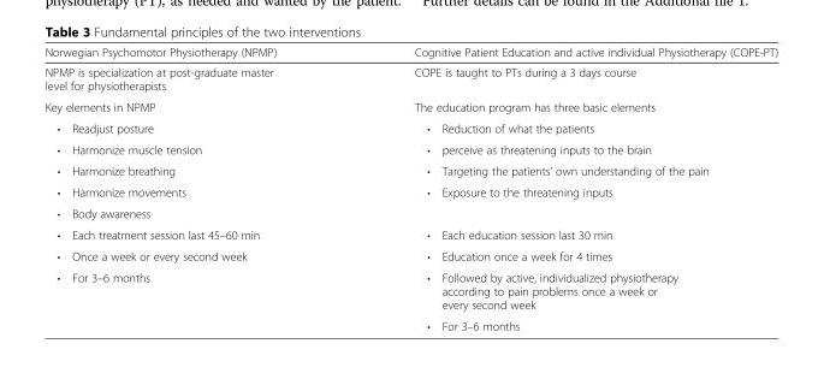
<table><thead><tr><td>Norwegian Psychomotor Physiotherapy (NPMP)</td><td>Cognitive Patient Education and active individual Physiotherapy (COPE-PT)</td></tr></thead><tbody><tr><td>NPMP is specialization at post-graduate master level for physiotherapists</td><td>COPE is taught to PTs during a 3 days course</td></tr><tr><td>Key elements in NPMP</td><td>The education program has three basic elements</td></tr><tr><td>• Readjust posture</td><td>• Reduction of what the patients</td></tr><tr><td>• Harmonize muscle tension</td><td>• perceive as threatening inputs to the brain</td></tr><tr><td>• Harmonize breathing</td><td>• Targeting the patients’ own understanding of the pain</td></tr><tr><td>• Harmonize movements</td><td rowspan="2">• Exposure to the threatening inputs</td></tr><tr><td>• Body awareness</td></tr><tr><td>• Each treatment session last 45–60 min</td><td>• Each education session last 30 min</td></tr><tr><td>• Once a week or every second week</td><td>• Education once a week for 4 times</td></tr><tr><td rowspan="2">• For 3–6 months</td><td>• Followed by active, individualized physiotherapy according to pain problems once a week or every second week</td></tr><tr><td>• For 3–6 months</td></tr></tbody></table>